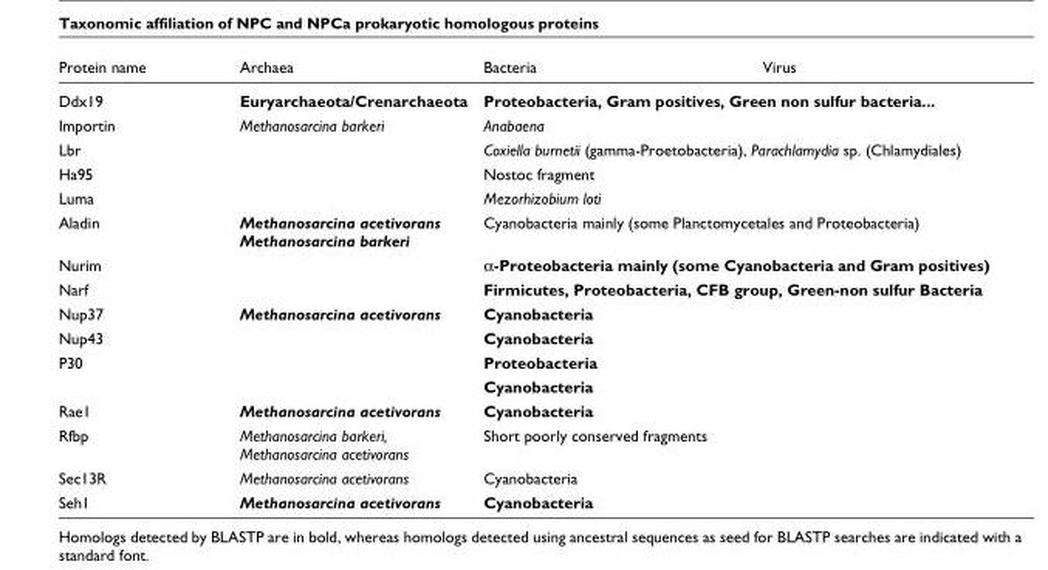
<table><thead><tr><td>Protein name</td><td>Archaea</td><td>Bacteria</td><td>Virus</td></tr></thead><tbody><tr><td>Ddx19</td><td>Euryarchaeota/Crenarchaeota</td><td colspan="2">Proteobacteria, Gram positives, Green non sulfur bacteria...</td></tr><tr><td>Importin</td><td>Methanosarcina barkeri</td><td colspan="2">Anabaena</td></tr><tr><td>Lbr</td><td></td><td colspan="2">Coxiella burnetii (gamma-Proetobacteria), Parachlamydia sp. (Chlamydiales)</td></tr><tr><td>Ha95</td><td></td><td colspan="2">Nostoc fragment</td></tr><tr><td>Luma</td><td></td><td colspan="2">Mezorhizobium loti</td></tr><tr><td>Aladin</td><td>Methanosarcina acetivorans Methanosarcina barkeri</td><td colspan="2">Cyanobacteria mainly (some Planctomycetales and Proteobacteria)</td></tr><tr><td>Nurim</td><td></td><td colspan="2">α-Proteobacteria mainly (some Cyanobacteria and Gram positives)</td></tr><tr><td>Narf</td><td></td><td colspan="2">Firmicutes, Proteobacteria, CFB group, Green-non sulfur Bacteria</td></tr><tr><td>Nup37</td><td>Methanosarcina acetivorans</td><td colspan="2">Cyanobacteria</td></tr><tr><td>Nup43</td><td></td><td colspan="2">Cyanobacteria</td></tr><tr><td rowspan="2">P30</td><td></td><td colspan="2">Proteobacteria</td></tr><tr><td></td><td colspan="2">Cyanobacteria</td></tr><tr><td>Rae1</td><td>Methanosarcina acetivorans</td><td colspan="2">Cyanobacteria</td></tr><tr><td>Rfbp</td><td>Methanosarcina barkeri, Methanosarcina acetivorans</td><td colspan="2">Short poorly conserved fragments</td></tr><tr><td>Sec13R</td><td>Methanosarcina acetivorans</td><td colspan="2">Cyanobacteria</td></tr><tr><td>Seh1</td><td>Methanosarcina acetivorans</td><td colspan="2">Cyanobacteria</td></tr></tbody></table>